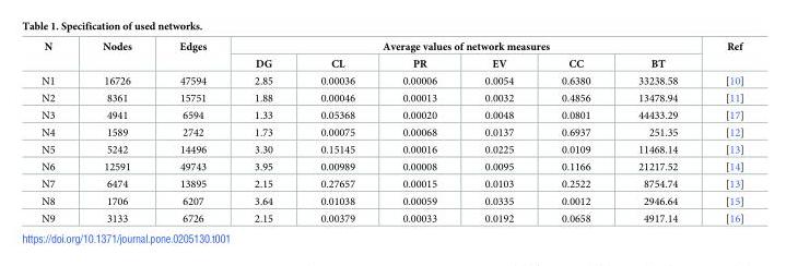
<table><thead><tr><td rowspan="2">N</td><td rowspan="2">Nodes</td><td rowspan="2">Edges</td><td colspan="6">Average values of network measures</td><td rowspan="2">Ref</td></tr><tr><td>DG</td><td>CL</td><td>PR</td><td>EV</td><td>CC</td><td>BT</td></tr></thead><tbody><tr><td>N1</td><td>16726</td><td>47594</td><td>2.85</td><td>0.00036</td><td>0.00006</td><td>0.0054</td><td>0.6380</td><td>33238.58</td><td>[10]</td></tr><tr><td>N2</td><td>8361</td><td>15751</td><td>1.88</td><td>0.00046</td><td>0.00013</td><td>0.0032</td><td>0.4856</td><td>13478.94</td><td>[11]</td></tr><tr><td>N3</td><td>4941</td><td>6594</td><td>1.33</td><td>0.05368</td><td>0.00020</td><td>0.0048</td><td>0.0801</td><td>44433.29</td><td>[17]</td></tr><tr><td>N4</td><td>1589</td><td>2742</td><td>1.73</td><td>0.00075</td><td>0.00068</td><td>0.0137</td><td>0.6937</td><td>251.35</td><td>[12]</td></tr><tr><td>N5</td><td>5242</td><td>14496</td><td>3.30</td><td>0.15145</td><td>0.00016</td><td>0.0225</td><td>0.0109</td><td>11468.14</td><td>[13]</td></tr><tr><td>N6</td><td>12591</td><td>49743</td><td>3.95</td><td>0.00989</td><td>0.00008</td><td>0.0095</td><td>0.1166</td><td>21217.52</td><td>[14]</td></tr><tr><td>N7</td><td>6474</td><td>13895</td><td>2.15</td><td>0.27657</td><td>0.00015</td><td>0.0103</td><td>0.2522</td><td>8754.74</td><td>[13]</td></tr><tr><td>N8</td><td>1706</td><td>6207</td><td>3.64</td><td>0.01038</td><td>0.00059</td><td>0.0335</td><td>0.0012</td><td>2946.64</td><td>[15]</td></tr><tr><td>N9</td><td>3133</td><td>6726</td><td>2.15</td><td>0.00379</td><td>0.00033</td><td>0.0192</td><td>0.0658</td><td>4917.14</td><td>[16]</td></tr></tbody></table>